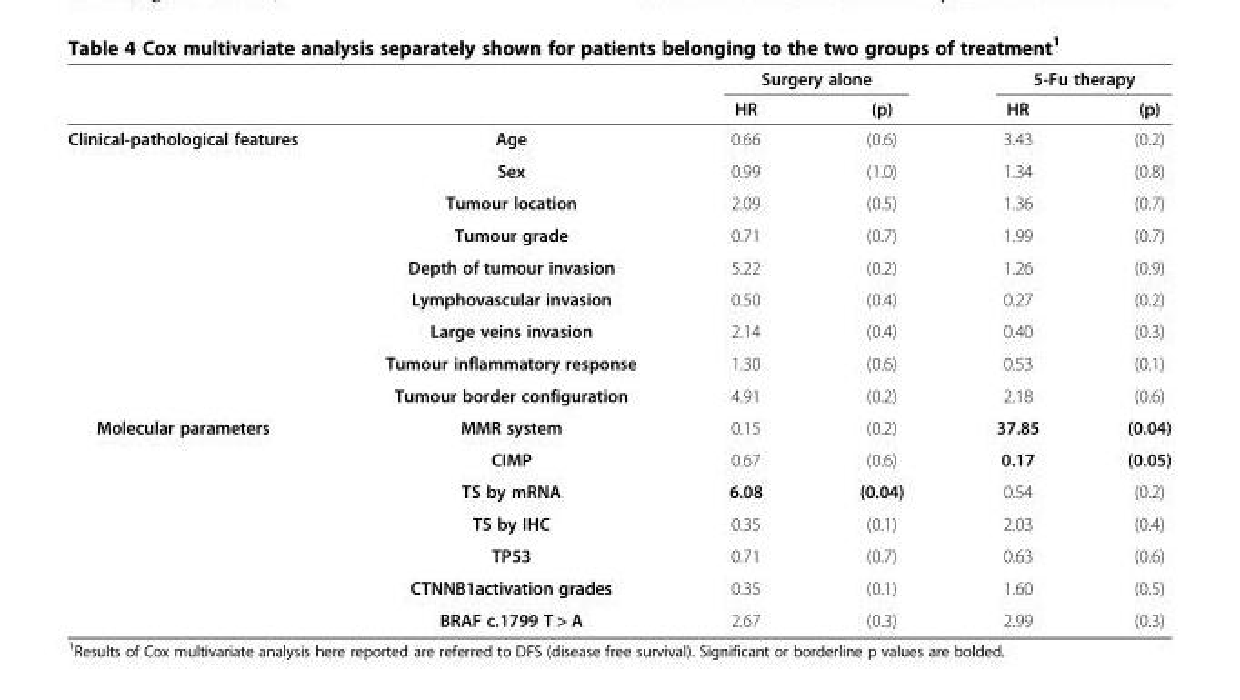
<table><thead><tr><td rowspan="2"></td><td rowspan="2"></td><td colspan="2">Surgery alone</td><td colspan="2">5-Fu therapy</td></tr><tr><td>HR</td><td>(p)</td><td>HR</td><td>(p)</td></tr></thead><tbody><tr><td rowspan="9">Clinical-pathological features</td><td>Age</td><td>0.66</td><td>(0.6)</td><td>3.43</td><td>(0.2)</td></tr><tr><td>Sex</td><td>0.99</td><td>(1.0)</td><td>1.34</td><td>(0.8)</td></tr><tr><td>Tumour location</td><td>2.09</td><td>(0.5)</td><td>1.36</td><td>(0.7)</td></tr><tr><td>Tumour grade</td><td>0.71</td><td>(0.7)</td><td>1.99</td><td>(0.7)</td></tr><tr><td>Depth of tumour invasion</td><td>5.22</td><td>(0.2)</td><td>1.26</td><td>(0.9)</td></tr><tr><td>Lymphovascular invasion</td><td>0.50</td><td>(0.4)</td><td>0.27</td><td>(0.2)</td></tr><tr><td>Large veins invasion</td><td>2.14</td><td>(0.4)</td><td>0.40</td><td>(0.3)</td></tr><tr><td>Tumour inflammatory response</td><td>1.30</td><td>(0.6)</td><td>0.53</td><td>(0.1)</td></tr><tr><td>Tumour border configuration</td><td>4.91</td><td>(0.2)</td><td>2.18</td><td>(0.6)</td></tr><tr><td rowspan="7">Molecular parameters</td><td>MMR system</td><td>0.15</td><td>(0.2)</td><td>37.85</td><td>(0.04)</td></tr><tr><td>CIMP</td><td>0.67</td><td>(0.6)</td><td>0.17</td><td>(0.05)</td></tr><tr><td>TS by mRNA</td><td>6.08</td><td>(0.04)</td><td>0.54</td><td>(0.2)</td></tr><tr><td>TS by IHC</td><td>0.35</td><td>(0.1)</td><td>2.03</td><td>(0.4)</td></tr><tr><td>TP53</td><td>0.71</td><td>(0.7)</td><td>0.63</td><td>(0.6)</td></tr><tr><td>CTNNB1activation grades</td><td>0.35</td><td>(0.1)</td><td>1.60</td><td>(0.5)</td></tr><tr><td>BRAF c.1799 T &gt; A</td><td>2.67</td><td>(0.3)</td><td>2.99</td><td>(0.3)</td></tr></tbody></table>